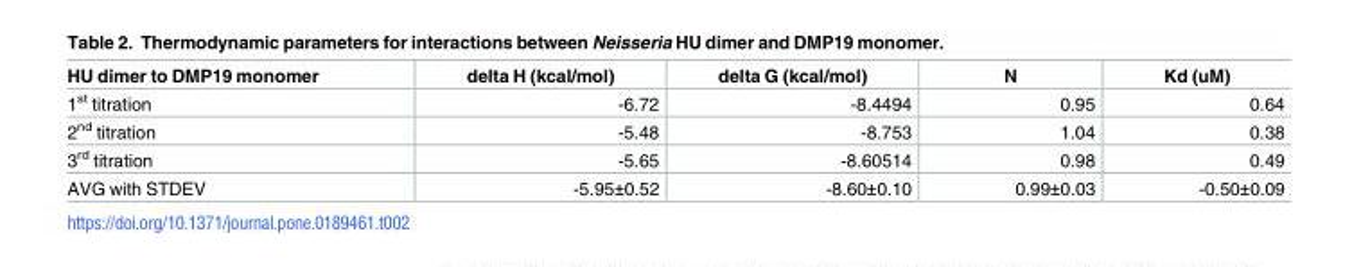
<table><thead><tr><td>HU dimer to DMP19 monomer</td><td>delta H (kcal/mol)</td><td>delta G (kcal/mol)</td><td>N</td><td>Kd (uM)</td></tr></thead><tbody><tr><td>1<sup>st</sup> titration</td><td>-6.72</td><td>-8.4494</td><td>0.95</td><td>0.64</td></tr><tr><td>2<sup>nd</sup> titration</td><td>-5.48</td><td>-8.753</td><td>1.04</td><td>0.38</td></tr><tr><td>3<sup>rd</sup> titration</td><td>-5.65</td><td>-8.60514</td><td>0.98</td><td>0.49</td></tr><tr><td>AVG with STDEV</td><td>-5.95±0.52</td><td>-8.60±0.10</td><td>0.99±0.03</td><td>-0.50±0.09</td></tr></tbody></table>